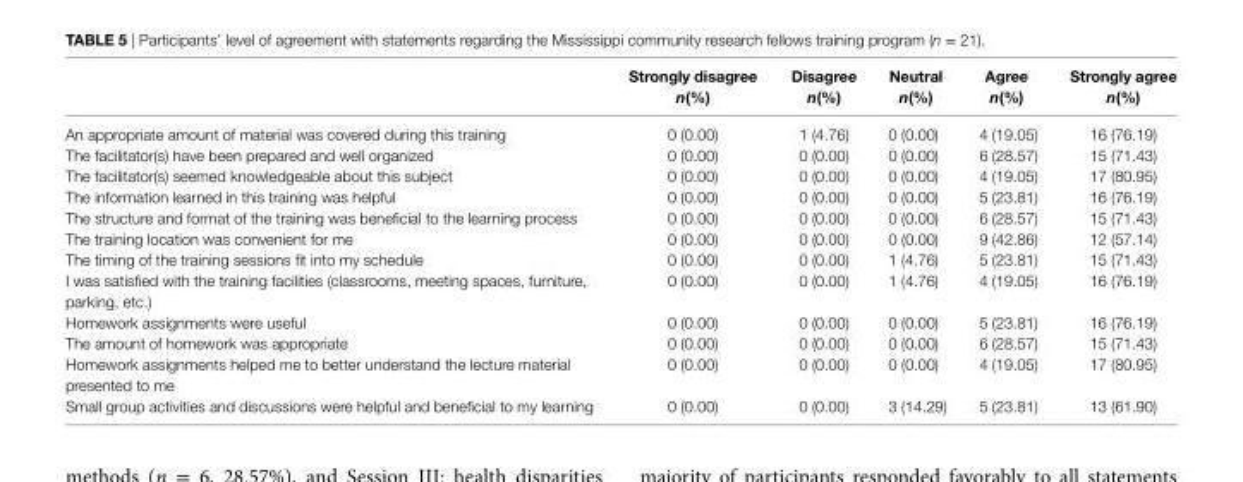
<table><thead><tr><td></td><td>Strongly disagree n(%)</td><td>Disagree n(%)</td><td>neutral n(%)</td><td>agree n(%)</td><td>Strongly agree n(%)</td></tr></thead><tbody><tr><td>An appropriate amount of material was covered during this training</td><td>0 (0.00)</td><td>1 (4.76)</td><td>0 (0.00)</td><td>4 (19.05)</td><td>16 (76.19)</td></tr><tr><td>The facilitator(s) have been prepared and well organized</td><td>0 (0.00)</td><td>0 (0.00)</td><td>0 (0.00)</td><td>6 (28.57)</td><td>15 (71.43)</td></tr><tr><td>The facilitator(s) seemed knowledgeable about this subject</td><td>0 (0.00)</td><td>0 (0.00)</td><td>0 (0.00)</td><td>4 (19.05)</td><td>17 (80.95)</td></tr><tr><td>The information learned in this training was helpful</td><td>0 (0.00)</td><td>0 (0.00)</td><td>0 (0.00)</td><td>5 (23.81)</td><td>16 (76.19)</td></tr><tr><td>The structure and format of the training was beneficial to the learning process</td><td>0 (0.00)</td><td>0 (0.00)</td><td>0 (0.00)</td><td>6 (28.57)</td><td>15 (71.43)</td></tr><tr><td>The training location was convenient for me</td><td>0 (0.00)</td><td>0 (0.00)</td><td>0 (0.00)</td><td>9 (42.86)</td><td>12 (57.14)</td></tr><tr><td>The timing of the training sessions fit into my schedule</td><td>0 (0.00)</td><td>0 (0.00)</td><td>1 (4.76)</td><td>5 (23.81)</td><td>15 (71.43)</td></tr><tr><td>I was satisfied with the training facilities (classrooms, meeting spaces, furniture, parking, etc.)</td><td>0 (0.00)</td><td>0 (0.00)</td><td>1 (4.76)</td><td>4 (19.05)</td><td>16 (76.19)</td></tr><tr><td>Homework assignments were useful</td><td>0 (0.00)</td><td>0 (0.00)</td><td>0 (0.00)</td><td>5 (23.81)</td><td>16 (76.19)</td></tr><tr><td>The amount of homework was appropriate</td><td>0 (0.00)</td><td>0 (0.00)</td><td>0 (0.00)</td><td>6 (28.57)</td><td>15 (71.43)</td></tr><tr><td>Homework assignments helped me to better understand the lecture material presented to me</td><td>0 (0.00)</td><td>0 (0.00)</td><td>0 (0.00)</td><td>4 (19.05)</td><td>17 (80.95)</td></tr><tr><td>Small group activities and discussions were helpful and beneficial to my learning</td><td>0 (0.00)</td><td>0 (0.00)</td><td>3 (14.29)</td><td>5 (23.81)</td><td>13 (61.90)</td></tr></tbody></table>